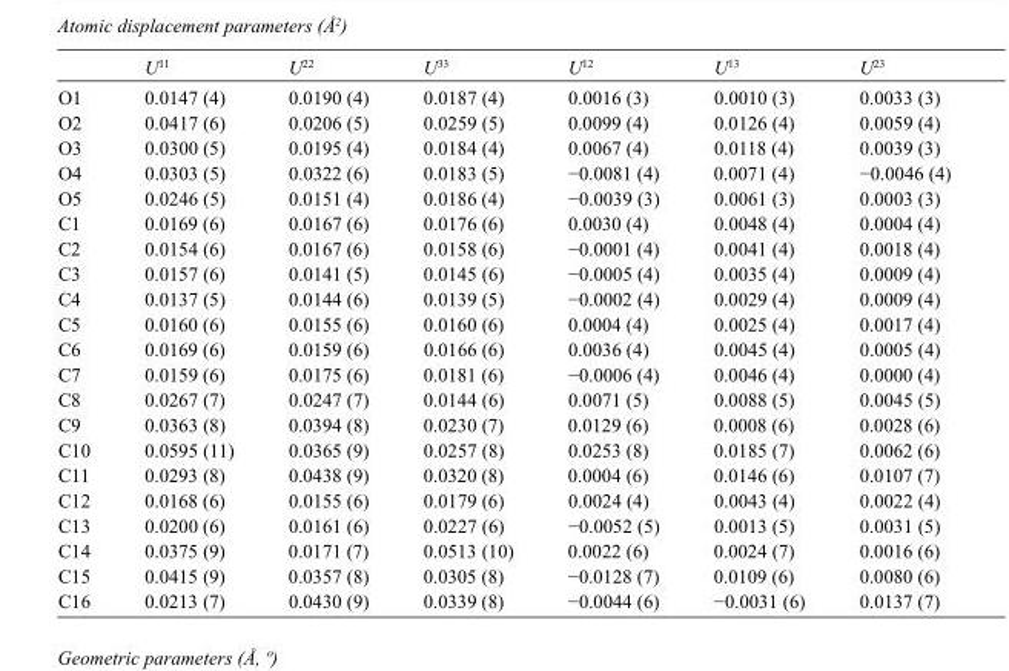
<table><thead><tr><td></td><td>U<sup>11</sup></td><td>U<sup>22</sup></td><td>U<sup>33</sup></td><td>U<sup>12</sup></td><td>U<sup>13</sup></td><td>U<sup>23</sup></td></tr></thead><tbody><tr><td>O1</td><td>0.0147 (4)</td><td>0.0190 (4)</td><td>0.0187 (4)</td><td>0.0016 (3)</td><td>0.0010 (3)</td><td>0.0033 (3)</td></tr><tr><td>O2</td><td>0.0417 (6)</td><td>0.0206 (5)</td><td>0.0259 (5)</td><td>0.0099 (4)</td><td>0.0126 (4)</td><td>0.0059 (4)</td></tr><tr><td>O3</td><td>0.0300 (5)</td><td>0.0195 (4)</td><td>0.0184 (4)</td><td>0.0067 (4)</td><td>0.0118 (4)</td><td>0.0039 (3)</td></tr><tr><td>O4</td><td>0.0303 (5)</td><td>0.0322 (6)</td><td>0.0183 (5)</td><td>−0.0081 (4)</td><td>0.0071 (4)</td><td>−0.0046 (4)</td></tr><tr><td>O5</td><td>0.0246 (5)</td><td>0.0151 (4)</td><td>0.0186 (4)</td><td>−0.0039 (3)</td><td>0.0061 (3)</td><td>0.0003 (3)</td></tr><tr><td>C1</td><td>0.0169 (6)</td><td>0.0167 (6)</td><td>0.0176 (6)</td><td>0.0030 (4)</td><td>0.0048 (4)</td><td>0.0004 (4)</td></tr><tr><td>C2</td><td>0.0154 (6)</td><td>0.0167 (6)</td><td>0.0158 (6)</td><td>−0.0001 (4)</td><td>0.0041 (4)</td><td>0.0018 (4)</td></tr><tr><td>C3</td><td>0.0157 (6)</td><td>0.0141 (5)</td><td>0.0145 (6)</td><td>−0.0005 (4)</td><td>0.0035 (4)</td><td>0.0009 (4)</td></tr><tr><td>C4</td><td>0.0137 (5)</td><td>0.0144 (6)</td><td>0.0139 (5)</td><td>−0.0002 (4)</td><td>0.0029 (4)</td><td>0.0009 (4)</td></tr><tr><td>C5</td><td>0.0160 (6)</td><td>0.0155 (6)</td><td>0.0160 (6)</td><td>0.0004 (4)</td><td>0.0025 (4)</td><td>0.0017 (4)</td></tr><tr><td>C6</td><td>0.0169 (6)</td><td>0.0159 (6)</td><td>0.0166 (6)</td><td>0.0036 (4)</td><td>0.0045 (4)</td><td>0.0005 (4)</td></tr><tr><td>C7</td><td>0.0159 (6)</td><td>0.0175 (6)</td><td>0.0181 (6)</td><td>−0.0006 (4)</td><td>0.0046 (4)</td><td>0.0000 (4)</td></tr><tr><td>C8</td><td>0.0267 (7)</td><td>0.0247 (7)</td><td>0.0144 (6)</td><td>0.0071 (5)</td><td>0.0088 (5)</td><td>0.0045 (5)</td></tr><tr><td>C9</td><td>0.0363 (8)</td><td>0.0394 (8)</td><td>0.0230 (7)</td><td>0.0129 (6)</td><td>0.0008 (6)</td><td>0.0028 (6)</td></tr><tr><td>C10</td><td>0.0595 (11)</td><td>0.0365 (9)</td><td>0.0257 (8)</td><td>0.0253 (8)</td><td>0.0185 (7)</td><td>0.0062 (6)</td></tr><tr><td>C11</td><td>0.0293 (8)</td><td>0.0438 (9)</td><td>0.0320 (8)</td><td>0.0004 (6)</td><td>0.0146 (6)</td><td>0.0107 (7)</td></tr><tr><td>C12</td><td>0.0168 (6)</td><td>0.0155 (6)</td><td>0.0179 (6)</td><td>0.0024 (4)</td><td>0.0043 (4)</td><td>0.0022 (4)</td></tr><tr><td>C13</td><td>0.0200 (6)</td><td>0.0161 (6)</td><td>0.0227 (6)</td><td>−0.0052 (5)</td><td>0.0013 (5)</td><td>0.0031 (5)</td></tr><tr><td>C14</td><td>0.0375 (9)</td><td>0.0171 (7)</td><td>0.0513 (10)</td><td>0.0022 (6)</td><td>0.0024 (7)</td><td>0.0016 (6)</td></tr><tr><td>C15</td><td>0.0415 (9)</td><td>0.0357 (8)</td><td>0.0305 (8)</td><td>−0.0128 (7)</td><td>0.0109 (6)</td><td>0.0080 (6)</td></tr><tr><td>C16</td><td>0.0213 (7)</td><td>0.0430 (9)</td><td>0.0339 (8)</td><td>−0.0044 (6)</td><td>−0.0031 (6)</td><td>0.0137 (7)</td></tr></tbody></table>